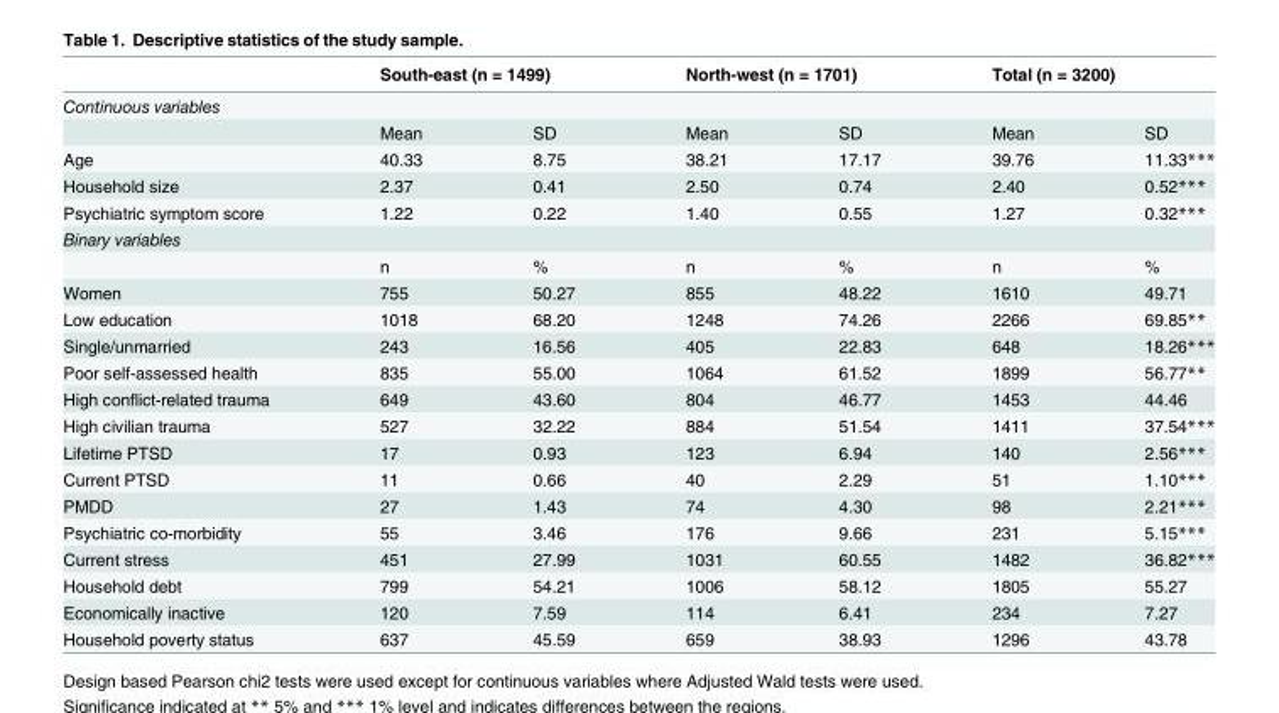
<table><thead><tr><td></td><td colspan="2">South-east (n = 1499)</td><td colspan="2">North-west (n = 1701)</td><td colspan="2">Total (n = 3200)</td></tr><tr><td colspan="7">Continuous variables</td></tr><tr><td></td><td>Mean</td><td>SD</td><td>Mean</td><td>SD</td><td>Mean</td><td>SD</td></tr></thead><tbody><tr><td>Age</td><td>40.33</td><td>8.75</td><td>38.21</td><td>17.17</td><td>39.76</td><td>11.33***</td></tr><tr><td>Household size</td><td>2.37</td><td>0.41</td><td>2.50</td><td>0.74</td><td>2.40</td><td>0.52***</td></tr><tr><td>Psychiatric symptom score</td><td>1.22</td><td>0.22</td><td>1.40</td><td>0.55</td><td>1.27</td><td>0.32***</td></tr><tr><td colspan="7">Binary variables</td></tr><tr><td></td><td>n</td><td>%</td><td>n</td><td>%</td><td>n</td><td>%</td></tr><tr><td>Women</td><td>755</td><td>50.27</td><td>855</td><td>48.22</td><td>1610</td><td>49.71</td></tr><tr><td>Low education</td><td>1018</td><td>68.20</td><td>1248</td><td>74.26</td><td>2266</td><td>69.85**</td></tr><tr><td>Single/unmarried</td><td>243</td><td>16.56</td><td>405</td><td>22.83</td><td>648</td><td>18.26***</td></tr><tr><td>Poor self-assessed health</td><td>835</td><td>55.00</td><td>1064</td><td>61.52</td><td>1899</td><td>56.77**</td></tr><tr><td>High conflict-related trauma</td><td>649</td><td>43.60</td><td>804</td><td>46.77</td><td>1453</td><td>44.46</td></tr><tr><td>High civilian trauma</td><td>527</td><td>32.22</td><td>884</td><td>51.54</td><td>1411</td><td>37.54***</td></tr><tr><td>Lifetime PTSD</td><td>17</td><td>0.93</td><td>123</td><td>6.94</td><td>140</td><td>2.56***</td></tr><tr><td>Current PTSD</td><td>11</td><td>0.66</td><td>40</td><td>2.29</td><td>51</td><td>1.10***</td></tr><tr><td>PMDD</td><td>27</td><td>1.43</td><td>74</td><td>4.30</td><td>98</td><td>2.21***</td></tr><tr><td>Psychiatric co-morbidity</td><td>55</td><td>3.46</td><td>176</td><td>9.66</td><td>231</td><td>5.15***</td></tr><tr><td>Current stress</td><td>451</td><td>27.99</td><td>1031</td><td>60.55</td><td>1482</td><td>36.82***</td></tr><tr><td>Household debt</td><td>799</td><td>54.21</td><td>1006</td><td>58.12</td><td>1805</td><td>55.27</td></tr><tr><td>Economically inactive</td><td>120</td><td>7.59</td><td>114</td><td>6.41</td><td>234</td><td>7.27</td></tr><tr><td>Household poverty status</td><td>637</td><td>45.59</td><td>659</td><td>38.93</td><td>1296</td><td>43.78</td></tr></tbody></table>